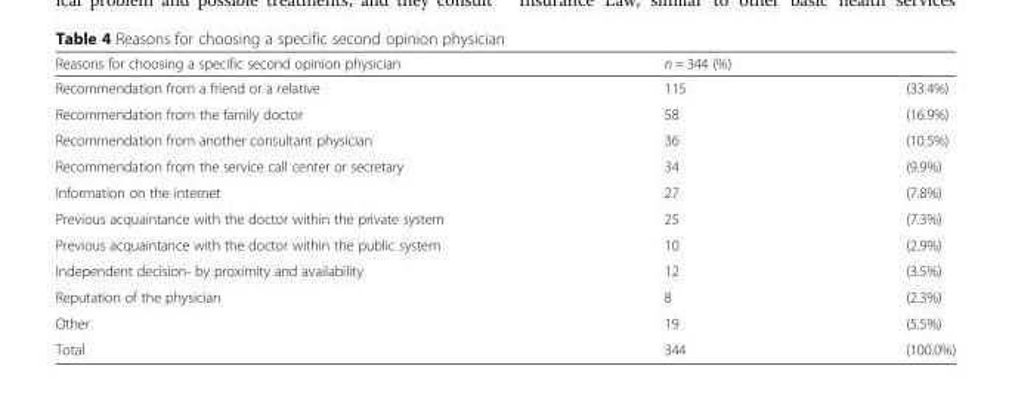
<table><thead><tr><td rowspan="2">Reasons for choosing a specific second opinion physician Recommendation from a friend or a relative</td><td colspan="2">n = 344 (%)</td></tr><tr><td>115</td><td>(33.4%)</td></tr></thead><tbody><tr><td>Recommendation from the family doctor</td><td>58</td><td>(16.9%)</td></tr><tr><td>Recommendation from another consultant physician</td><td>36</td><td>(10.5%)</td></tr><tr><td>Recommendation from the service call center or secretary</td><td>34</td><td>(9.9%)</td></tr><tr><td>Information on the internet</td><td>27</td><td>(7.8%)</td></tr><tr><td>Previous acquaintance with the doctor within the private system</td><td>25</td><td>(7.3%)</td></tr><tr><td>Previous acquaintance with the doctor within the public system</td><td>10</td><td>(2.9%)</td></tr><tr><td>Independent decision- by proximity and availability</td><td>12</td><td>(3.5%)</td></tr><tr><td>Reputation of the physician</td><td>8</td><td>(2.3%)</td></tr><tr><td>Other</td><td>19</td><td>(5.5%)</td></tr><tr><td>Total</td><td>344</td><td>(100.0%)</td></tr></tbody></table>